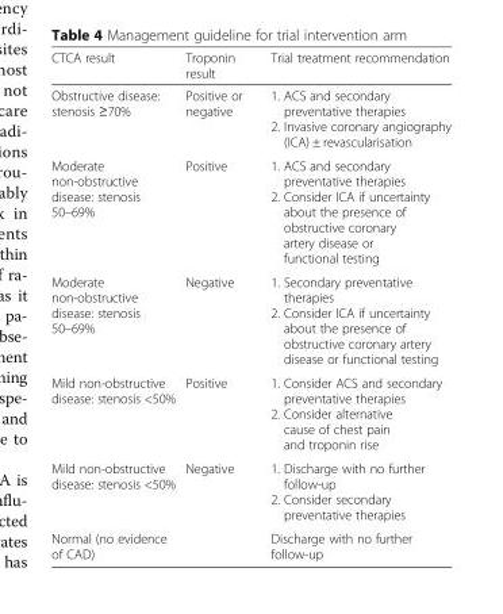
<table><thead><tr><td>CTCA result</td><td>Troponin result</td><td>Trial treatment recommendation</td></tr></thead><tbody><tr><td>Obstructive disease: stenosis ≥70%</td><td>Positive or negative</td><td>1. ACS and secondary preventative therapies 2. Invasive coronary angiography (ICA) ± revascularisation</td></tr><tr><td>Moderate non-obstructive disease: stenosis 50–69%</td><td>Positive</td><td>1. ACS and secondary preventative therapies 2. Consider ICA if uncertainty about the presence of obstructive coronary artery disease or functional testing</td></tr><tr><td>Moderate non-obstructive disease: stenosis 50–69%</td><td>Negative</td><td>1. Secondary preventative therapies 2. Consider ICA if uncertainty about the presence of obstructive coronary artery disease or functional testing</td></tr><tr><td>Mild non-obstructive disease: stenosis &lt;50%</td><td>Positive</td><td>1. Consider ACS and secondary preventative therapies 2. Consider alternative cause of chest pain and troponin rise</td></tr><tr><td>Mild non-obstructive disease: stenosis &lt;50%</td><td>Negative</td><td>1. Discharge with no further follow-up 2. Consider secondary preventative therapies</td></tr><tr><td>Normal (no evidence of CAD)</td><td></td><td>Discharge with no further follow-up</td></tr></tbody></table>